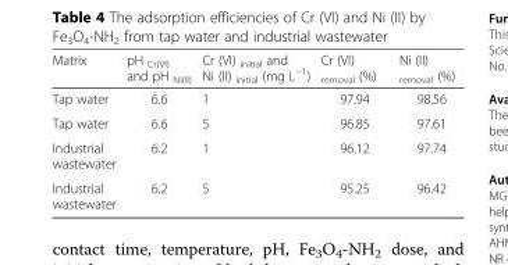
<table><thead><tr><td>Matrix</td><td>pH <sub>Cr(VI)</sub> and pH <sub>Ni(II)</sub></td><td>Cr (VI) <sub>initial</sub> and Ni (II) <sub>initial</sub> (mg L<sup>−1</sup>)</td><td>Cr (VI) <sub>removal</sub> (%)</td><td>Ni (II) <sub>removal</sub> (%)</td></tr></thead><tbody><tr><td>Tap water</td><td>6.6</td><td>1</td><td>97.94</td><td>98.56</td></tr><tr><td>Tap water</td><td>6.6</td><td>5</td><td>96.85</td><td>97.61</td></tr><tr><td>Industrial wastewater</td><td>6.2</td><td>1</td><td>96.12</td><td>97.74</td></tr><tr><td>Industrial wastewater</td><td>6.2</td><td>5</td><td>95.25</td><td>96.42</td></tr></tbody></table>